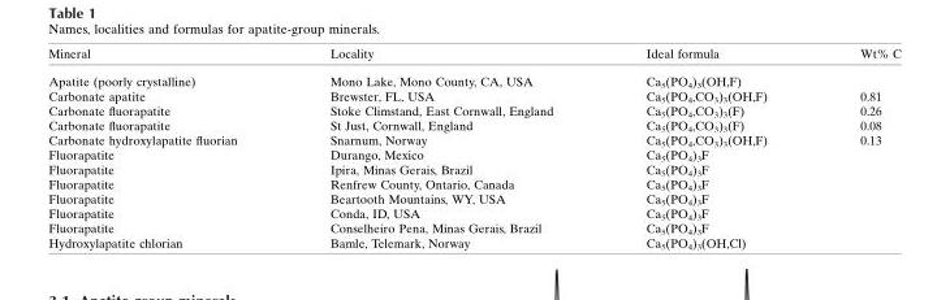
<table><thead><tr><td>Mineral</td><td>Locality</td><td>Ideal formula</td><td>Wt% C</td></tr></thead><tbody><tr><td>Apatite (poorly crystalline)</td><td>Mono Lake, Mono County, CA, USA</td><td>Ca<sub>5</sub>(PO<sub>4</sub>)<sub>3</sub>(OH,F)</td><td></td></tr><tr><td>Carbonate apatite</td><td>Brewster, FL, USA</td><td>Ca<sub>5</sub>(PO<sub>4</sub>,CO<sub>3</sub>)<sub>3</sub>(OH,F)</td><td>0.81</td></tr><tr><td>Carbonate fluorapatite</td><td>Stoke Climstand, East Cornwall, England</td><td>Ca<sub>5</sub>(PO<sub>4</sub>,CO<sub>3</sub>)<sub>3</sub>(F)</td><td>0.26</td></tr><tr><td>Carbonate fluorapatite</td><td>St Just, Cornwall, England</td><td>Ca<sub>5</sub>(PO<sub>4</sub>,CO<sub>3</sub>)<sub>3</sub>(F)</td><td>0.08</td></tr><tr><td>Carbonate hydroxylapatite fluorian</td><td>Snarnum, Norway</td><td>Ca<sub>5</sub>(PO<sub>4</sub>,CO<sub>3</sub>)<sub>3</sub>(OH,F)</td><td>0.13</td></tr><tr><td>Fluorapatite</td><td>Durango, Mexico</td><td>Ca<sub>5</sub>(PO<sub>4</sub>)<sub>3</sub>F</td><td></td></tr><tr><td>Fluorapatite</td><td>Ipira, Minas Gerais, Brazil</td><td>Ca<sub>5</sub>(PO<sub>4</sub>)<sub>3</sub>F</td><td></td></tr><tr><td>Fluorapatite</td><td>Renfrew County, Ontario, Canada</td><td>Ca<sub>5</sub>(PO<sub>4</sub>)<sub>3</sub>F</td><td></td></tr><tr><td>Fluorapatite</td><td>Beartooth Mountains, WY, USA</td><td>Ca<sub>5</sub>(PO<sub>4</sub>)<sub>3</sub>F</td><td></td></tr><tr><td>Fluorapatite</td><td>Conda, ID, USA</td><td>Ca<sub>5</sub>(PO<sub>4</sub>)<sub>3</sub>F</td><td></td></tr><tr><td>Fluorapatite</td><td>Conselheiro Pena, Minas Gerais, Brazil</td><td>Ca<sub>5</sub>(PO<sub>4</sub>)<sub>3</sub>F</td><td></td></tr><tr><td>Hydroxylapatite chlorian</td><td>Bamle, Telemark, Norway</td><td>Ca<sub>5</sub>(PO<sub>4</sub>)<sub>3</sub>(OH,Cl)</td><td></td></tr></tbody></table>